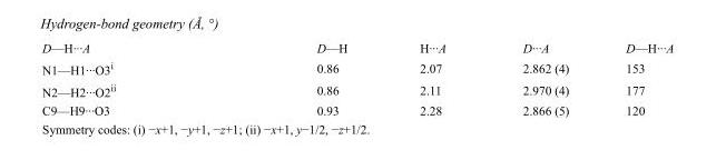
<table><tbody><tr><td>D—H···A</td><td>D—H</td><td>H···A</td><td>D···A</td><td>D—H···A</td></tr><tr><td>N1—H1···O3<sup>i</sup></td><td>0.86</td><td>2.07</td><td>2.862 (4)</td><td>153</td></tr><tr><td>N2—H2···O2<sup>ii</sup></td><td>0.86</td><td>2.11</td><td>2.970 (4)</td><td>177</td></tr><tr><td>C9—H9···O3</td><td>0.93</td><td>2.28</td><td>2.866 (5)</td><td>120</td></tr></tbody></table>